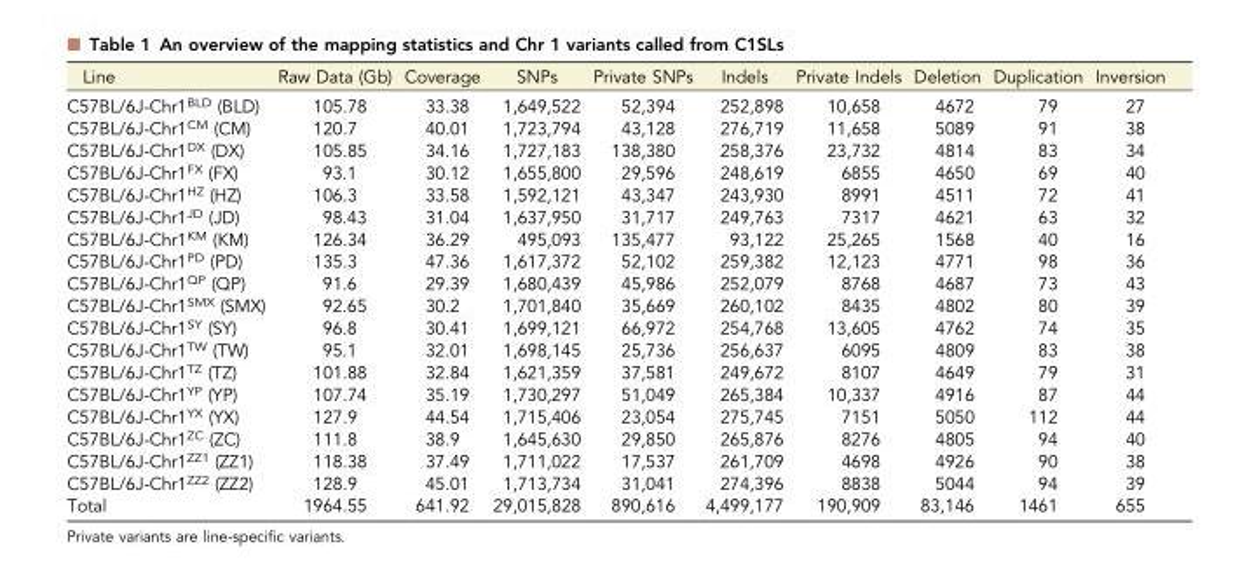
<table><thead><tr><td>Line</td><td>Raw Data (Gb)</td><td>Coverage</td><td>SNPs</td><td>Private SNPs</td><td>Indels</td><td>Private Indels</td><td>Deletion</td><td>Duplication</td><td>Inversion</td></tr></thead><tbody><tr><td>C57BL/6J-Chr1<sup>BLD</sup> (BLD)</td><td>105.78</td><td>33.38</td><td>1,649,522</td><td>52,394</td><td>252,898</td><td>10,658</td><td>4672</td><td>79</td><td>27</td></tr><tr><td>C57BL/6J-Chr1<sup>CM</sup> (CM)</td><td>120.7</td><td>40.01</td><td>1,723,794</td><td>43,128</td><td>276,719</td><td>11,658</td><td>5089</td><td>91</td><td>38</td></tr><tr><td>C57BL/6J-Chr1<sup>DX</sup> (DX)</td><td>105.85</td><td>34.16</td><td>1,727,183</td><td>138,380</td><td>258,376</td><td>23,732</td><td>4814</td><td>83</td><td>34</td></tr><tr><td>C57BL/6J-Chr1<sup>FX</sup> (FX)</td><td>93.1</td><td>30.12</td><td>1,655,800</td><td>29,596</td><td>248,619</td><td>6855</td><td>4650</td><td>69</td><td>40</td></tr><tr><td>C57BL/6J-Chr1<sup>HZ</sup> (HZ)</td><td>106.3</td><td>33.58</td><td>1,592,121</td><td>43,347</td><td>243,930</td><td>8991</td><td>4511</td><td>72</td><td>41</td></tr><tr><td>C57BL/6J-Chr1<sup>JD</sup> (JD)</td><td>98.43</td><td>31.04</td><td>1,637,950</td><td>31,717</td><td>249,763</td><td>7317</td><td>4621</td><td>63</td><td>32</td></tr><tr><td>C57BL/6J-Chr1<sup>KM</sup> (KM)</td><td>126.34</td><td>36.29</td><td>495,093</td><td>135,477</td><td>93,122</td><td>25,265</td><td>1568</td><td>40</td><td>16</td></tr><tr><td>C57BL/6J-Chr1<sup>PD</sup> (PD)</td><td>135.3</td><td>47.36</td><td>1,617,372</td><td>52,102</td><td>259,382</td><td>12,123</td><td>4771</td><td>98</td><td>36</td></tr><tr><td>C57BL/6J-Chr1<sup>QP</sup> (QP)</td><td>91.6</td><td>29.39</td><td>1,680,439</td><td>45,986</td><td>252,079</td><td>8768</td><td>4687</td><td>73</td><td>43</td></tr><tr><td>C57BL/6J-Chr1<sup>SMX</sup> (SMX)</td><td>92.65</td><td>30.2</td><td>1,701,840</td><td>35,669</td><td>260,102</td><td>8435</td><td>4802</td><td>80</td><td>39</td></tr><tr><td>C57BL/6J-Chr1<sup>SY</sup> (SY)</td><td>96.8</td><td>30.41</td><td>1,699,121</td><td>66,972</td><td>254,768</td><td>13,605</td><td>4762</td><td>74</td><td>35</td></tr><tr><td>C57BL/6J-Chr1<sup>TW</sup> (TW)</td><td>95.1</td><td>32.01</td><td>1,698,145</td><td>25,736</td><td>256,637</td><td>6095</td><td>4809</td><td>83</td><td>38</td></tr><tr><td>C57BL/6J-Chr1<sup>TZ</sup> (TZ)</td><td>101.88</td><td>32.84</td><td>1,621,359</td><td>37,581</td><td>249,672</td><td>8107</td><td>4649</td><td>79</td><td>31</td></tr><tr><td>C57BL/6J-Chr1<sup>YP</sup> (YP)</td><td>107.74</td><td>35.19</td><td>1,730,297</td><td>51,049</td><td>265,384</td><td>10,337</td><td>4916</td><td>87</td><td>44</td></tr><tr><td>C57BL/6J-Chr1<sup>YX</sup> (YX)</td><td>127.9</td><td>44.54</td><td>1,715,406</td><td>23,054</td><td>275,745</td><td>7151</td><td>5050</td><td>112</td><td>44</td></tr><tr><td>C57BL/6J-Chr1<sup>ZC</sup> (ZC)</td><td>111.8</td><td>38.9</td><td>1,645,630</td><td>29,850</td><td>265,876</td><td>8276</td><td>4805</td><td>94</td><td>40</td></tr><tr><td>C57BL/6J-Chr1<sup>ZZ1</sup> (ZZ1)</td><td>118.38</td><td>37.49</td><td>1,711,022</td><td>17,537</td><td>261,709</td><td>4698</td><td>4926</td><td>90</td><td>38</td></tr><tr><td>C57BL/6J-Chr1<sup>ZZ2</sup> (ZZ2)</td><td>128.9</td><td>45.01</td><td>1,713,734</td><td>31,041</td><td>274,396</td><td>8838</td><td>5044</td><td>94</td><td>39</td></tr><tr><td>Total</td><td>1964.55</td><td>641.92</td><td>29,015,828</td><td>890,616</td><td>4,499,177</td><td>190,909</td><td>83,146</td><td>1461</td><td>655</td></tr></tbody></table>